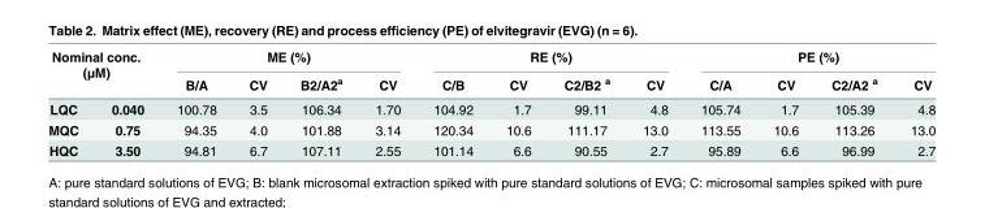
<table><thead><tr><td rowspan="2" colspan="2">Nominal conc. (μM)</td><td colspan="4">ME (%)</td><td colspan="4">RE (%)</td><td colspan="4">PE (%)</td></tr><tr><td rowspan="2">B/A 100.78</td><td rowspan="2">CV 3.5</td><td rowspan="2">B2/A2<sup>a</sup> 106.34</td><td rowspan="2">CV 1.70</td><td rowspan="2">C/B 104.92</td><td rowspan="2">CV 1.7</td><td rowspan="2">C2/B2 <sup>a</sup> 99.11</td><td rowspan="2">CV 4.8</td><td rowspan="2">C/A 105.74</td><td rowspan="2">CV 1.7</td><td rowspan="2">C2/A2 <sup>a</sup> 105.39</td><td rowspan="2">CV 4.8</td></tr><tr><td>LQC</td><td>0.040</td></tr></thead><tbody><tr><td>MQC</td><td>0.75</td><td>94.35</td><td>4.0</td><td>101.88</td><td>3.14</td><td>120.34</td><td>10.6</td><td>111.17</td><td>13.0</td><td>113.55</td><td>10.6</td><td>113.26</td><td>13.0</td></tr><tr><td>HQC</td><td>3.50</td><td>94.81</td><td>6.7</td><td>107.11</td><td>2.55</td><td>101.14</td><td>6.6</td><td>90.55</td><td>2.7</td><td>95.89</td><td>6.6</td><td>96.99</td><td>2.7</td></tr></tbody></table>